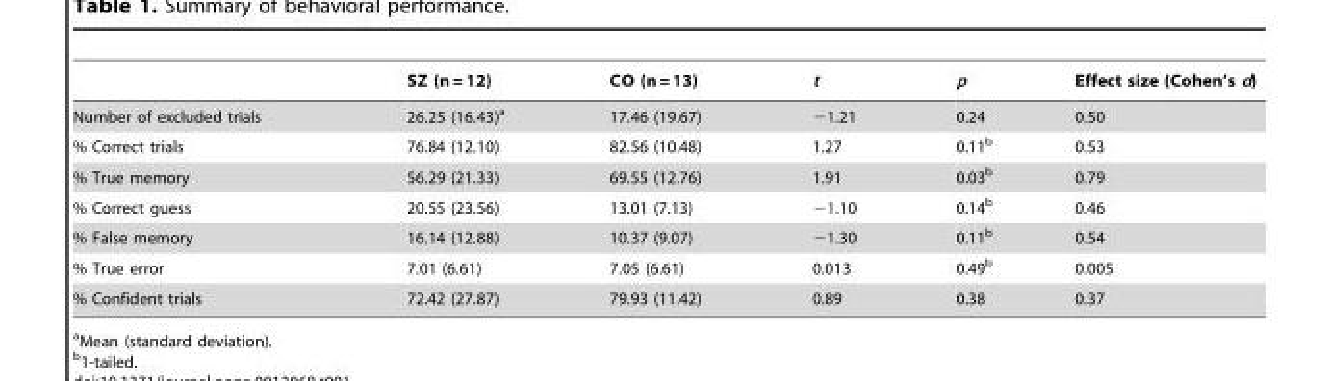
<table><thead><tr><td></td><td>SZ (n = 12)</td><td>CO (n = 13)</td><td>t</td><td>p</td><td>Effect size (Cohen’s d)</td></tr></thead><tbody><tr><td>Number of excluded trials</td><td>26.25 (16.43)<sup>a</sup></td><td>17.46 (19.67)</td><td>−1.21</td><td>0.24</td><td>0.50</td></tr><tr><td>% Correct trials</td><td>76.84 (12.10)</td><td>82.56 (10.48)</td><td>1.27</td><td>0.11<sup>b</sup></td><td>0.53</td></tr><tr><td>% True memory</td><td>56.29 (21.33)</td><td>69.55 (12.76)</td><td>1.91</td><td>0.03<sup>b</sup></td><td>0.79</td></tr><tr><td>% Correct guess</td><td>20.55 (23.56)</td><td>13.01 (7.13)</td><td>−1.10</td><td>0.14<sup>b</sup></td><td>0.46</td></tr><tr><td>% False memory</td><td>16.14 (12.88)</td><td>10.37 (9.07)</td><td>−1.30</td><td>0.11<sup>b</sup></td><td>0.54</td></tr><tr><td>% True error</td><td>7.01 (6.61)</td><td>7.05 (6.61)</td><td>0.013</td><td>0.49<sup>b</sup></td><td>0.005</td></tr><tr><td>% Confident trials</td><td>72.42 (27.87)</td><td>79.93 (11.42)</td><td>0.89</td><td>0.38</td><td>0.37</td></tr></tbody></table>